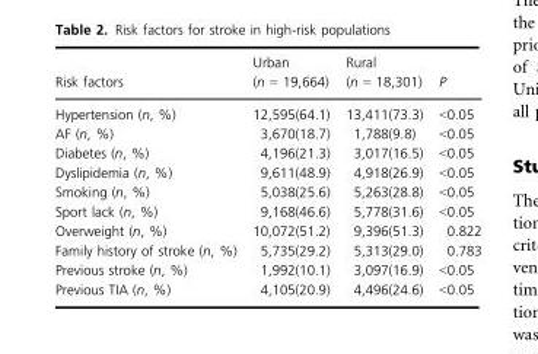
<table><thead><tr><td rowspan="2">Risk factors</td><td rowspan="2">Urban (n = 19,664)</td><td rowspan="2">Rural (n = 18,301)</td><td rowspan="2">P</td></tr><tr></tr></thead><tbody><tr><td>Hypertension (n, %)</td><td>12,595(64.1)</td><td>13,411(73.3)</td><td>&lt;0.05</td></tr><tr><td>AF (n, %)</td><td>3,670(18.7)</td><td>1,788(9.8)</td><td>&lt;0.05</td></tr><tr><td>Diabetes (n, %)</td><td>4,196(21.3)</td><td>3,017(16.5)</td><td>&lt;0.05</td></tr><tr><td>Dyslipidemia (n, %)</td><td>9,611(48.9)</td><td>4,918(26.9)</td><td>&lt;0.05</td></tr><tr><td>Smoking (n, %)</td><td>5,038(25.6)</td><td>5,263(28.8)</td><td>&lt;0.05</td></tr><tr><td>Sport lack (n, %)</td><td>9,168(46.6)</td><td>5,778(31.6)</td><td>&lt;0.05</td></tr><tr><td>Overweight (n, %)</td><td>10,072(51.2)</td><td>9,396(51.3)</td><td>0.822</td></tr><tr><td>Family history of stroke (n, %)</td><td>5,735(29.2)</td><td>5,313(29.0)</td><td>0.783</td></tr><tr><td>Previous stroke (n, %)</td><td>1,992(10.1)</td><td>3,097(16.9)</td><td>&lt;0.05</td></tr><tr><td>Previous TIA (n, %)</td><td>4,105(20.9)</td><td>4,496(24.6)</td><td>&lt;0.05</td></tr></tbody></table>